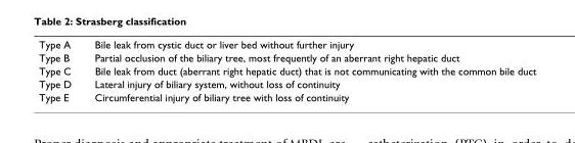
<table><tbody><tr><td>Type A</td><td>Bile leak from cystic duct or liver bed without further injury</td></tr><tr><td>Type B</td><td>Partial occlusion of the biliary tree, most frequently of an aberrant right hepatic duct</td></tr><tr><td>Type C</td><td>Bile leak from duct (aberrant right hepatic duct) that is not communicating with the common bile duct</td></tr><tr><td>Type D</td><td>Lateral injury of biliary system, without loss of continuity</td></tr><tr><td>Type E</td><td>Circumferential injury of biliary tree with loss of continuity</td></tr></tbody></table>